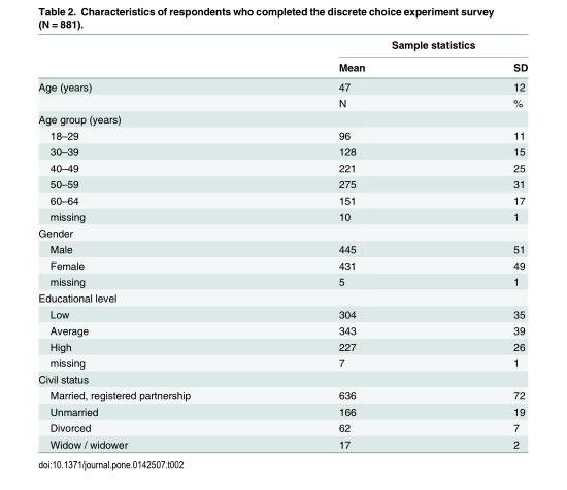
<table><thead><tr><td rowspan="2"></td><td colspan="2">Sample statistics</td></tr><tr><td>Mean</td><td>SD</td></tr></thead><tbody><tr><td rowspan="2">Age (years)</td><td>47</td><td>12</td></tr><tr><td>N</td><td>%</td></tr><tr><td colspan="3">Age group (years)</td></tr><tr><td>18–29</td><td>96</td><td>11</td></tr><tr><td>30–39</td><td>128</td><td>15</td></tr><tr><td>40–49</td><td>221</td><td>25</td></tr><tr><td>50–59</td><td>275</td><td>31</td></tr><tr><td>60–64</td><td>151</td><td>17</td></tr><tr><td>missing</td><td>10</td><td>1</td></tr><tr><td colspan="3">Gender</td></tr><tr><td>Male</td><td>445</td><td>51</td></tr><tr><td>Female</td><td>431</td><td>49</td></tr><tr><td>missing</td><td>5</td><td>1</td></tr><tr><td colspan="3">Educational level</td></tr><tr><td>Low</td><td>304</td><td>35</td></tr><tr><td>Average</td><td>343</td><td>39</td></tr><tr><td>High</td><td>227</td><td>26</td></tr><tr><td>missing</td><td>7</td><td>1</td></tr><tr><td colspan="3">Civil status</td></tr><tr><td>Married, registered partnership</td><td>636</td><td>72</td></tr><tr><td>Unmarried</td><td>166</td><td>19</td></tr><tr><td>Divorced</td><td>62</td><td>7</td></tr><tr><td>Widow / widower</td><td>17</td><td>2</td></tr></tbody></table>